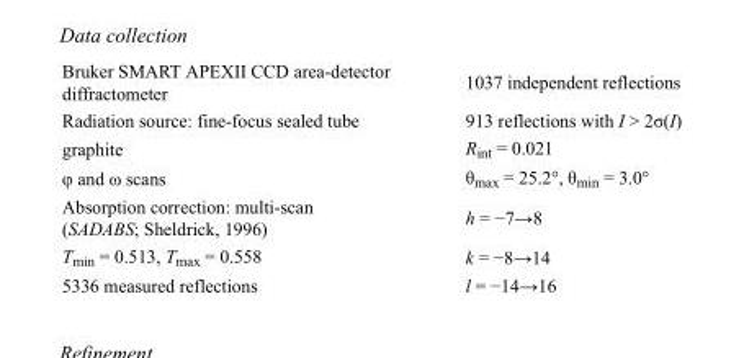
<table><tbody><tr><td>Bruker SMART APEXII CCD area-detector diffractometer</td><td>1037 independent reflections</td></tr><tr><td>Radiation source: fine-focus sealed tube</td><td>913 reflections with I &gt; 2σ(I)</td></tr><tr><td>graphite</td><td>R<sub>int</sub> = 0.021</td></tr><tr><td>φ and ω scans</td><td>θ<sub>max</sub> = 25.2°, θ<sub>min</sub> = 3.0°</td></tr><tr><td>Absorption correction: multi-scan (SADABS; Sheldrick, 1996)</td><td>h = −7→8</td></tr><tr><td>T<sub>min</sub> = 0.513, T<sub>max</sub> = 0.558</td><td>k = −8→14</td></tr><tr><td>5336 measured reflections</td><td>l = −14→16</td></tr></tbody></table>